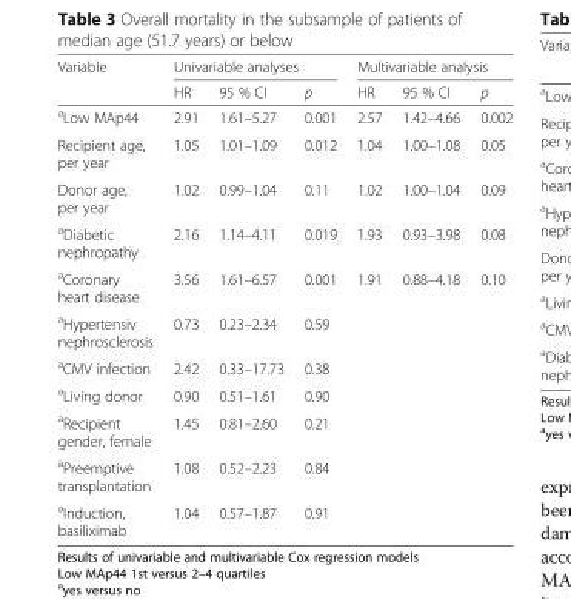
<table><thead><tr><td rowspan="2">Variable</td><td colspan="3">Univariable analyses</td><td colspan="3">Multivariable analysis</td></tr><tr><td>HR</td><td>95 % CI</td><td>p</td><td>HR</td><td>95 % CI</td><td>p</td></tr></thead><tbody><tr><td><sup>a</sup>Low MAp44</td><td>2.91</td><td>1.61–5.27</td><td>0.001</td><td>2.57</td><td>1.42–4.66</td><td>0.002</td></tr><tr><td>Recipient age, per year</td><td>1.05</td><td>1.01–1.09</td><td>0.012</td><td>1.04</td><td>1.00–1.08</td><td>0.05</td></tr><tr><td>Donor age, per year</td><td>1.02</td><td>0.99–1.04</td><td>0.11</td><td>1.02</td><td>1.00–1.04</td><td>0.09</td></tr><tr><td><sup>a</sup>Diabetic nephropathy</td><td>2.16</td><td>1.14–4.11</td><td>0.019</td><td>1.93</td><td>0.93–3.98</td><td>0.08</td></tr><tr><td><sup>a</sup>Coronary heart disease</td><td>3.56</td><td>1.61–6.57</td><td>0.001</td><td>1.91</td><td>0.88–4.18</td><td>0.10</td></tr><tr><td><sup>a</sup>Hypertensiv nephrosclerosis</td><td>0.73</td><td>0.23–2.34</td><td>0.59</td><td></td><td></td><td></td></tr><tr><td><sup>a</sup>CMV infection</td><td>2.42</td><td>0.33–17.73</td><td>0.38</td><td></td><td></td><td></td></tr><tr><td><sup>a</sup>Living donor</td><td>0.90</td><td>0.51–1.61</td><td>0.90</td><td></td><td></td><td></td></tr><tr><td><sup>a</sup>Recipient gender, female</td><td>1.45</td><td>0.81–2.60</td><td>0.21</td><td></td><td></td><td></td></tr><tr><td><sup>a</sup>Preemptive transplantation</td><td>1.08</td><td>0.52–2.23</td><td>0.84</td><td></td><td></td><td></td></tr><tr><td><sup>a</sup>Induction, basiliximab</td><td>1.04</td><td>0.57–1.87</td><td>0.91</td><td></td><td></td><td></td></tr></tbody></table>